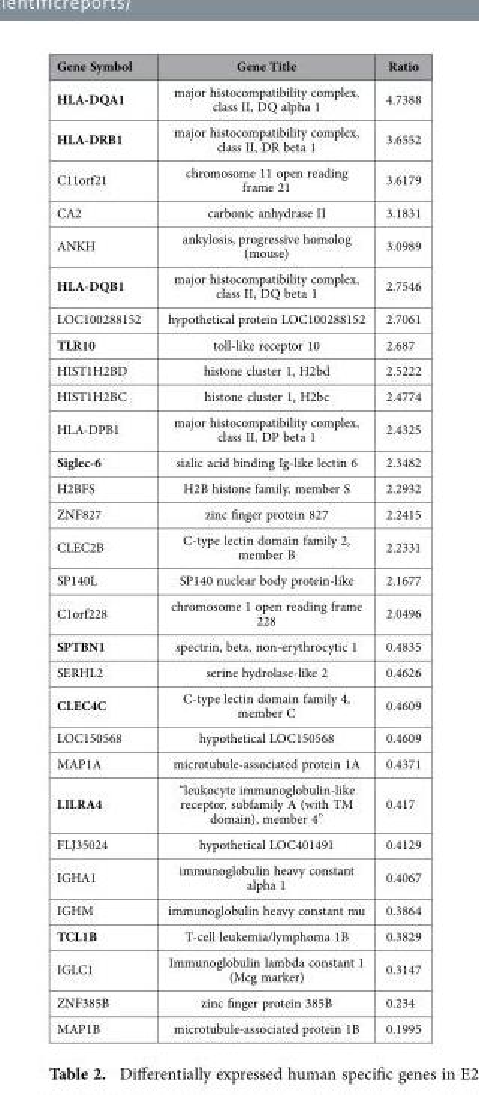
<table><thead><tr><td>Gene Symbol</td><td>Gene Title</td><td>Ratio</td></tr></thead><tbody><tr><td>HLA-DQA1</td><td>major histocompatibility complex, class II, DQ alpha 1</td><td>4.7388</td></tr><tr><td>HLA-DRB1</td><td>major histocompatibility complex, class II, DR beta 1</td><td>3.6552</td></tr><tr><td>C11orf21</td><td>chromosome 11 open reading frame 21</td><td>3.6179</td></tr><tr><td>CA2</td><td>carbonic anhydrase II</td><td>3.1831</td></tr><tr><td>ANKH</td><td>ankylosis, progressive homolog (mouse)</td><td>3.0989</td></tr><tr><td>HLA-DQB1</td><td>major histocompatibility complex, class II, DQ beta 1</td><td>2.7546</td></tr><tr><td>LOC100288152</td><td>hypothetical protein LOC100288152</td><td>2.7061</td></tr><tr><td>TLR10</td><td>toll-like receptor 10</td><td>2.687</td></tr><tr><td>HIST1H2BD</td><td>histone cluster 1, H2bd</td><td>2.5222</td></tr><tr><td>HIST1H2BC</td><td>histone cluster 1, H2bc</td><td>2.4774</td></tr><tr><td>HLA-DPB1</td><td>major histocompatibility complex, class II, DP beta 1</td><td>2.4325</td></tr><tr><td>Siglec-6</td><td>sialic acid binding Ig-like lectin 6</td><td>2.3482</td></tr><tr><td>H2BFS</td><td>H2B histone family, member S</td><td>2.2932</td></tr><tr><td>ZNF827</td><td>zinc finger protein 827</td><td>2.2415</td></tr><tr><td>CLEC2B</td><td>C-type lectin domain family 2, member B</td><td>2.2331</td></tr><tr><td>SP140L</td><td>SP140 nuclear body protein-like</td><td>2.1677</td></tr><tr><td>C1orf228</td><td>chromosome 1 open reading frame 228</td><td>2.0496</td></tr><tr><td>SPTBN1</td><td>spectrin, beta, non-erythrocytic 1</td><td>0.4835</td></tr><tr><td>SERHL2</td><td>serine hydrolase-like 2</td><td>0.4626</td></tr><tr><td>CLEC4C</td><td>C-type lectin domain family 4, member C</td><td>0.4609</td></tr><tr><td>LOC150568</td><td>hypothetical LOC150568</td><td>0.4609</td></tr><tr><td>MAP1A</td><td>microtubule-associated protein 1A</td><td>0.4371</td></tr><tr><td>LILRA4</td><td>“leukocyte immunoglobulin-like receptor, subfamily A (with TM domain), member 4”</td><td>0.417</td></tr><tr><td>FLJ35024</td><td>hypothetical LOC401491</td><td>0.4129</td></tr><tr><td>IGHA1</td><td>immunoglobulin heavy constant alpha 1</td><td>0.4067</td></tr><tr><td>IGHM</td><td>immunoglobulin heavy constant mu</td><td>0.3864</td></tr><tr><td>TCL1B</td><td>T-cell leukemia/lymphoma 1B</td><td>0.3829</td></tr><tr><td>IGLC1</td><td>Immunoglobulin lambda constant 1 (Mcg marker)</td><td>0.3147</td></tr><tr><td>ZNF385B</td><td>zinc finger protein 385B</td><td>0.234</td></tr><tr><td>MAP1B</td><td>microtubule-associated protein 1B</td><td>0.1995</td></tr></tbody></table>